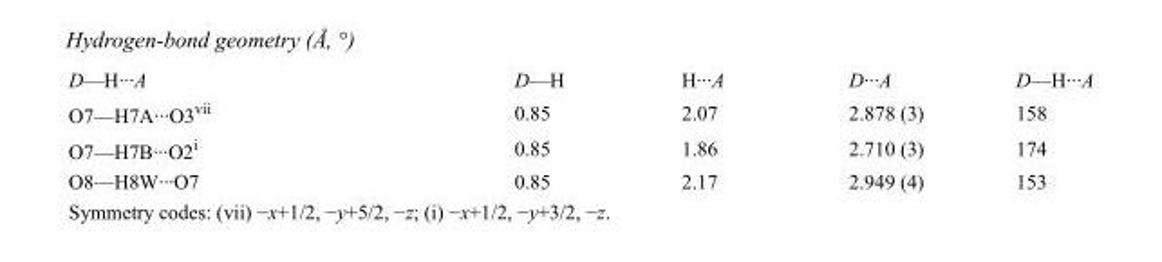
<table><tbody><tr><td>D—H···A</td><td>D—H</td><td>H···A</td><td>D···A</td><td>D—H···A</td></tr><tr><td>O7—H7A···O3<sup>vii</sup></td><td>0.85</td><td>2.07</td><td>2.878 (3)</td><td>158</td></tr><tr><td>O7—H7B···O2<sup>i</sup></td><td>0.85</td><td>1.86</td><td>2.710 (3)</td><td>174</td></tr><tr><td>O8—H8W···O7</td><td>0.85</td><td>2.17</td><td>2.949 (4)</td><td>153</td></tr></tbody></table>